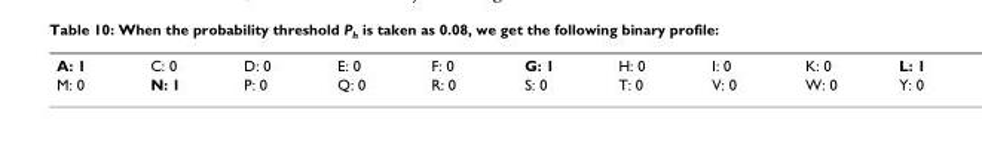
<table><tbody><tr><td>A: 1</td><td>C: 0</td><td>D: 0</td><td>E: 0</td><td>F: 0</td><td>G: 1</td><td>H: 0</td><td>I: 0</td><td>K: 0</td><td>L: 1</td></tr><tr><td>M: 0</td><td>N: 1</td><td>P: 0</td><td>Q: 0</td><td>R: 0</td><td>S: 0</td><td>T: 0</td><td>V: 0</td><td>W: 0</td><td>Y: 0</td></tr></tbody></table>